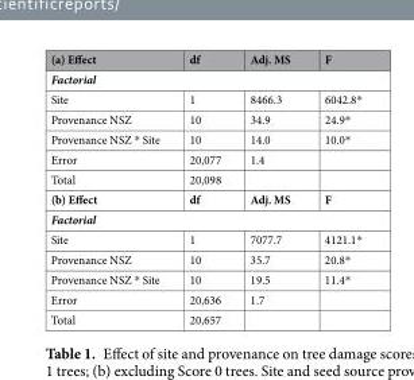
<table><thead><tr><td>(a) Effect</td><td>df</td><td>Adj. MS</td><td>F</td></tr></thead><tbody><tr><td colspan="4">Factorial</td></tr><tr><td>Site</td><td>1</td><td>8466.3</td><td>6042.8*</td></tr><tr><td>Provenance NSZ</td><td>10</td><td>34.9</td><td>24.9*</td></tr><tr><td>Provenance NSZ * Site</td><td>10</td><td>14.0</td><td>10.0*</td></tr><tr><td>Error</td><td>20,077</td><td>1.4</td><td></td></tr><tr><td>Total</td><td>20,098</td><td></td><td></td></tr><tr><td>(b) Effect</td><td>df</td><td>Adj. MS</td><td>F</td></tr><tr><td colspan="4">Factorial</td></tr><tr><td>Site</td><td>1</td><td>7077.7</td><td>4121.1*</td></tr><tr><td>Provenance NSZ</td><td>10</td><td>35.7</td><td>20.8*</td></tr><tr><td>Provenance NSZ * Site</td><td>10</td><td>19.5</td><td>11.4*</td></tr><tr><td>Error</td><td>20,636</td><td>1.7</td><td></td></tr><tr><td>Total</td><td>20,657</td><td></td><td></td></tr></tbody></table>